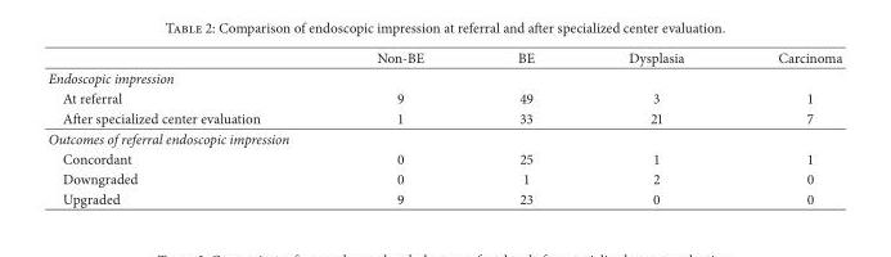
<table><thead><tr><td></td><td>Non-BE</td><td>BE</td><td>Dysplasia</td><td>Carcinoma</td></tr></thead><tbody><tr><td colspan="5">Endoscopic impression</td></tr><tr><td>At referral</td><td>9</td><td>49</td><td>3</td><td>1</td></tr><tr><td>After specialized center evaluation</td><td>1</td><td>33</td><td>21</td><td>7</td></tr><tr><td colspan="5">Outcomes of referral endoscopic impression</td></tr><tr><td>Concordant</td><td>0</td><td>25</td><td>1</td><td>1</td></tr><tr><td>Downgraded</td><td>0</td><td>1</td><td>2</td><td>0</td></tr><tr><td>Upgraded</td><td>9</td><td>23</td><td>0</td><td>0</td></tr></tbody></table>